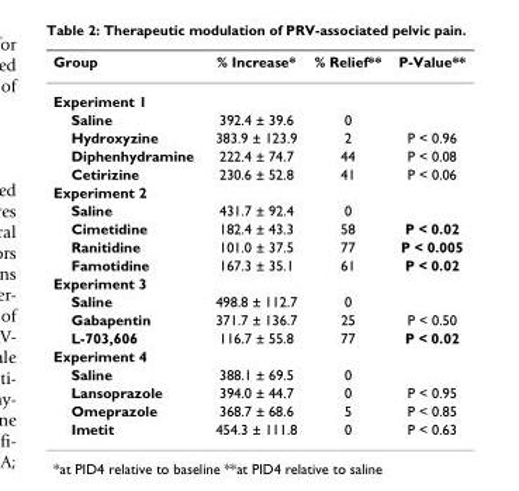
<table><thead><tr><td>Group</td><td>% Increase*</td><td>% Relief**</td><td>P-Value**</td></tr></thead><tbody><tr><td colspan="4">Experiment 1</td></tr><tr><td>Saline</td><td>392.4 ± 39.6</td><td>0</td><td></td></tr><tr><td>Hydroxyzine</td><td>383.9 ± 123.9</td><td>2</td><td>P &lt; 0.96</td></tr><tr><td>Diphenhydramine</td><td>222.4 ± 74.7</td><td>44</td><td>P &lt; 0.08</td></tr><tr><td>Cetirizine</td><td>230.6 ± 52.8</td><td>41</td><td>P &lt; 0.06</td></tr><tr><td colspan="4">Experiment 2</td></tr><tr><td>Saline</td><td>431.7 ± 92.4</td><td>0</td><td></td></tr><tr><td>Cimetidine</td><td>182.4 ± 43.3</td><td>58</td><td>P &lt; 0.02</td></tr><tr><td>Ranitidine</td><td>101.0 ± 37.5</td><td>77</td><td>P &lt; 0.005</td></tr><tr><td>Famotidine</td><td>167.3 ± 35.1</td><td>61</td><td>P &lt; 0.02</td></tr><tr><td colspan="4">Experiment 3</td></tr><tr><td>Saline</td><td>498.8 ± 112.7</td><td>0</td><td></td></tr><tr><td>Gabapentin</td><td>371.7 ± 136.7</td><td>25</td><td>P &lt; 0.50</td></tr><tr><td>L-703,606</td><td>116.7 ± 55.8</td><td>77</td><td>P &lt; 0.02</td></tr><tr><td colspan="4">Experiment 4</td></tr><tr><td>Saline</td><td>388.1 ± 69.5</td><td>0</td><td></td></tr><tr><td>Lansoprazole</td><td>394.0 ± 44.7</td><td>0</td><td>P &lt; 0.95</td></tr><tr><td>Omeprazole</td><td>368.7 ± 68.6</td><td>5</td><td>P &lt; 0.85</td></tr><tr><td>Imetit</td><td>454.3 ± 111.8</td><td>0</td><td>P &lt; 0.63</td></tr></tbody></table>